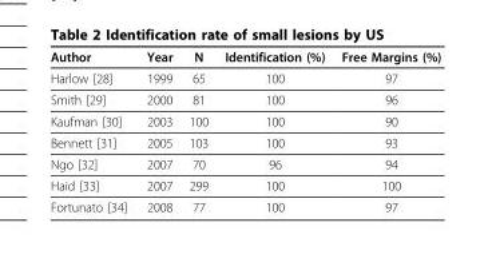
<table><thead><tr><td>Author</td><td>Year</td><td>N</td><td>Identification (%)</td><td>Free Margins (%)</td></tr></thead><tbody><tr><td>Harlow [28]</td><td>1999</td><td>65</td><td>100</td><td>97</td></tr><tr><td>Smith [29]</td><td>2000</td><td>81</td><td>100</td><td>96</td></tr><tr><td>Kaufman [30]</td><td>2003</td><td>100</td><td>100</td><td>90</td></tr><tr><td>Bennett [31]</td><td>2005</td><td>103</td><td>100</td><td>93</td></tr><tr><td>Ngo [32]</td><td>2007</td><td>70</td><td>96</td><td>94</td></tr><tr><td>Haid [33]</td><td>2007</td><td>299</td><td>100</td><td>100</td></tr><tr><td>Fortunato [34]</td><td>2008</td><td>77</td><td>100</td><td>97</td></tr></tbody></table>